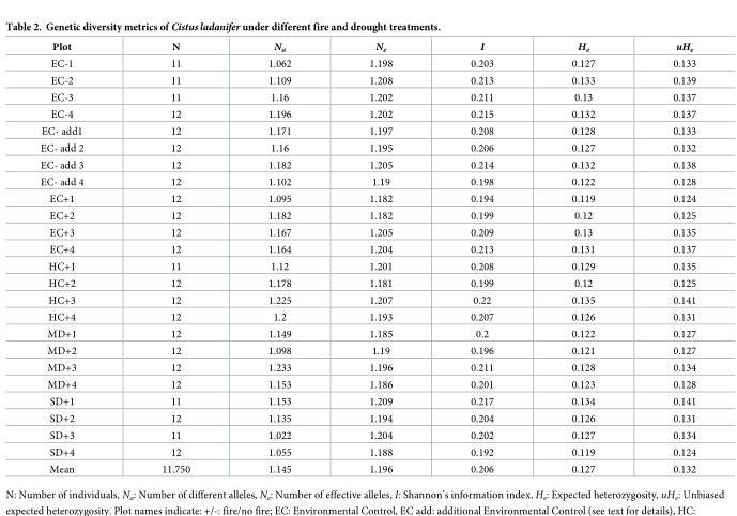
<table><thead><tr><td>Plot</td><td>N</td><td>N<sub>a</sub></td><td>N<sub>e</sub></td><td>I</td><td>H<sub>e</sub></td><td>uH<sub>e</sub></td></tr></thead><tbody><tr><td>EC-1</td><td>11</td><td>1.062</td><td>1.198</td><td>0.203</td><td>0.127</td><td>0.133</td></tr><tr><td>EC-2</td><td>11</td><td>1.109</td><td>1.208</td><td>0.213</td><td>0.133</td><td>0.139</td></tr><tr><td>EC-3</td><td>11</td><td>1.16</td><td>1.202</td><td>0.211</td><td>0.13</td><td>0.137</td></tr><tr><td>EC-4</td><td>12</td><td>1.196</td><td>1.202</td><td>0.215</td><td>0.132</td><td>0.137</td></tr><tr><td>EC- add1</td><td>12</td><td>1.171</td><td>1.197</td><td>0.208</td><td>0.128</td><td>0.133</td></tr><tr><td>EC- add 2</td><td>12</td><td>1.16</td><td>1.195</td><td>0.206</td><td>0.127</td><td>0.132</td></tr><tr><td>EC- add 3</td><td>12</td><td>1.182</td><td>1.205</td><td>0.214</td><td>0.132</td><td>0.138</td></tr><tr><td>EC- add 4</td><td>12</td><td>1.102</td><td>1.19</td><td>0.198</td><td>0.122</td><td>0.128</td></tr><tr><td>EC+1</td><td>12</td><td>1.095</td><td>1.182</td><td>0.194</td><td>0.119</td><td>0.124</td></tr><tr><td>EC+2</td><td>12</td><td>1.182</td><td>1.182</td><td>0.199</td><td>0.12</td><td>0.125</td></tr><tr><td>EC+3</td><td>12</td><td>1.167</td><td>1.205</td><td>0.209</td><td>0.13</td><td>0.135</td></tr><tr><td>EC+4</td><td>12</td><td>1.164</td><td>1.204</td><td>0.213</td><td>0.131</td><td>0.137</td></tr><tr><td>HC+1</td><td>11</td><td>1.12</td><td>1.201</td><td>0.208</td><td>0.129</td><td>0.135</td></tr><tr><td>HC+2</td><td>12</td><td>1.178</td><td>1.181</td><td>0.199</td><td>0.12</td><td>0.125</td></tr><tr><td>HC+3</td><td>12</td><td>1.225</td><td>1.207</td><td>0.22</td><td>0.135</td><td>0.141</td></tr><tr><td>HC+4</td><td>12</td><td>1.2</td><td>1.193</td><td>0.207</td><td>0.126</td><td>0.131</td></tr><tr><td>MD+1</td><td>12</td><td>1.149</td><td>1.185</td><td>0.2</td><td>0.122</td><td>0.127</td></tr><tr><td>MD+2</td><td>12</td><td>1.098</td><td>1.19</td><td>0.196</td><td>0.121</td><td>0.127</td></tr><tr><td>MD+3</td><td>12</td><td>1.233</td><td>1.196</td><td>0.211</td><td>0.128</td><td>0.134</td></tr><tr><td>MD+4</td><td>12</td><td>1.153</td><td>1.186</td><td>0.201</td><td>0.123</td><td>0.128</td></tr><tr><td>SD+1</td><td>11</td><td>1.153</td><td>1.209</td><td>0.217</td><td>0.134</td><td>0.141</td></tr><tr><td>SD+2</td><td>12</td><td>1.135</td><td>1.194</td><td>0.204</td><td>0.126</td><td>0.131</td></tr><tr><td>SD+3</td><td>11</td><td>1.022</td><td>1.204</td><td>0.202</td><td>0.127</td><td>0.134</td></tr><tr><td>SD+4</td><td>12</td><td>1.055</td><td>1.188</td><td>0.192</td><td>0.119</td><td>0.124</td></tr><tr><td>Mean</td><td>11.750</td><td>1.145</td><td>1.196</td><td>0.206</td><td>0.127</td><td>0.132</td></tr></tbody></table>